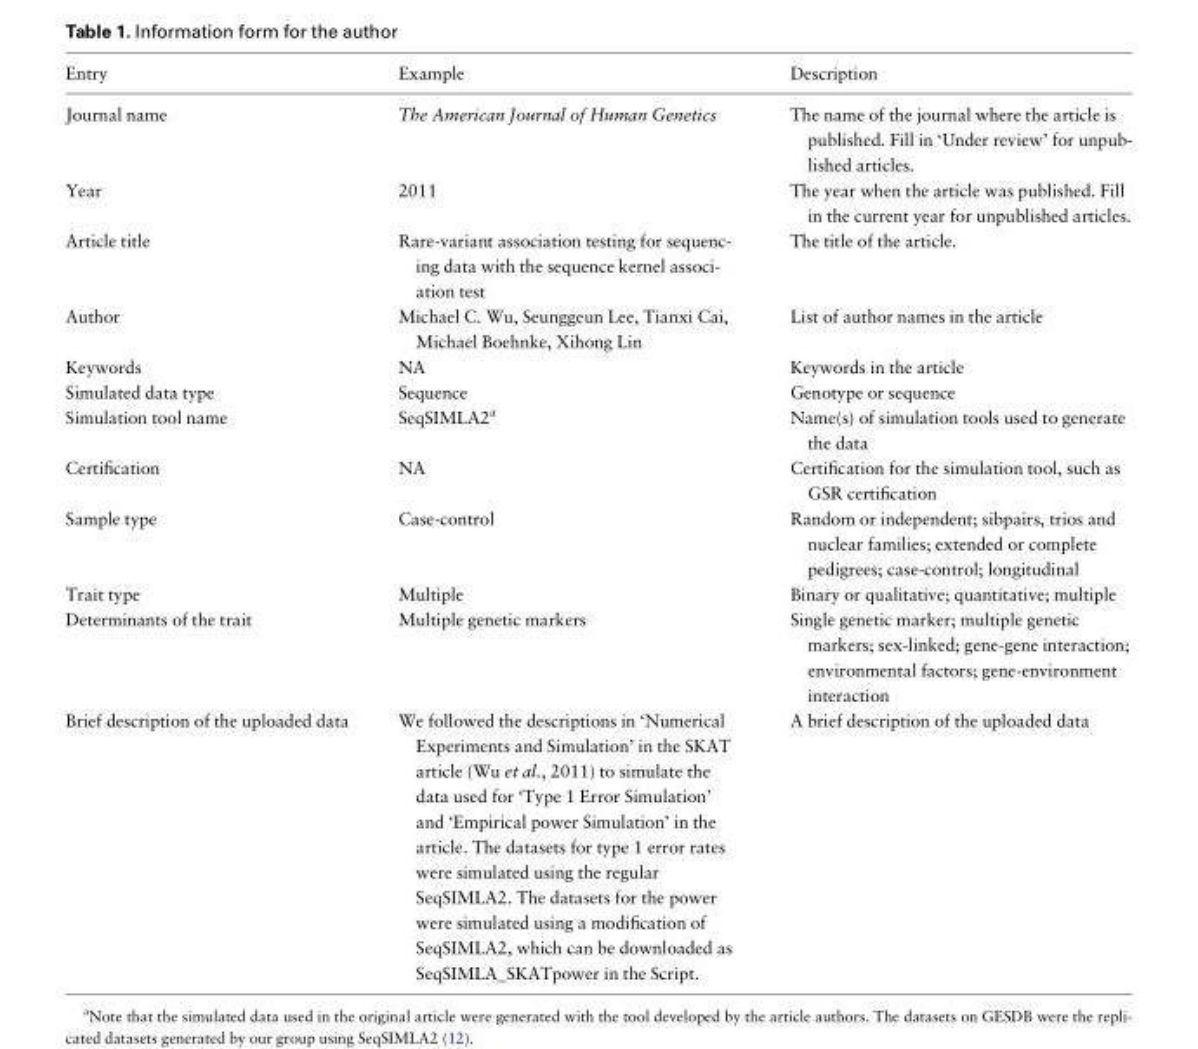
<table><thead><tr><td>Entry</td><td>Example</td><td>Description</td></tr></thead><tbody><tr><td>Journal name</td><td>The American Journal of Human Genetics</td><td>The name of the journal where the article is published. Fill in ‘Under review’ for unpub- lished articles.</td></tr><tr><td>Year</td><td>2011</td><td>The year when the article was published. Fill in the current year for unpublished articles.</td></tr><tr><td>Article title</td><td>Rare-variant association testing for sequenc- ing data with the sequence kernel associ- ation test</td><td>The title of the article.</td></tr><tr><td>Author</td><td>Michael C. Wu, Seunggeun Lee, Tianxi Cai, Michael Boehnke, Xihong Lin</td><td>List of author names in the article</td></tr><tr><td>Keywords</td><td>NA</td><td>Keywords in the article</td></tr><tr><td>Simulated data type</td><td>Sequence</td><td>Genotype or sequence</td></tr><tr><td>Simulation tool name</td><td>SeqSIMLA2<sup>a</sup></td><td>Name(s) of simulation tools used to generate the data</td></tr><tr><td>Certification</td><td>NA</td><td>Certification for the simulation tool, such as GSR certification</td></tr><tr><td>Sample type</td><td>Case-control</td><td>Random or independent; sibpairs, trios and nuclear families; extended or complete pedigrees; case-control; longitudinal</td></tr><tr><td>Trait type</td><td>Multiple</td><td>Binary or qualitative; quantitative; multiple</td></tr><tr><td>Determinants of the trait</td><td>Multiple genetic markers</td><td>Single genetic marker; multiple genetic markers; sex-linked; gene-gene interaction; environmental factors; gene-environment interaction</td></tr><tr><td>Brief description of the uploaded data</td><td>We followed the descriptions in ‘Numerical Experiments and Simulation’ in the SKAT article (Wu et al., 2011) to simulate the data used for ‘Type 1 Error Simulation’ and ‘Empirical power Simulation’ in the article. The datasets for type 1 error rates were simulated using the regular SeqSIMLA2. The datasets for the power were simulated using a modification of SeqSIMLA2, which can be downloaded as SeqSIMLA_SKATpower in the Script.</td><td>A brief description of the uploaded data</td></tr></tbody></table>